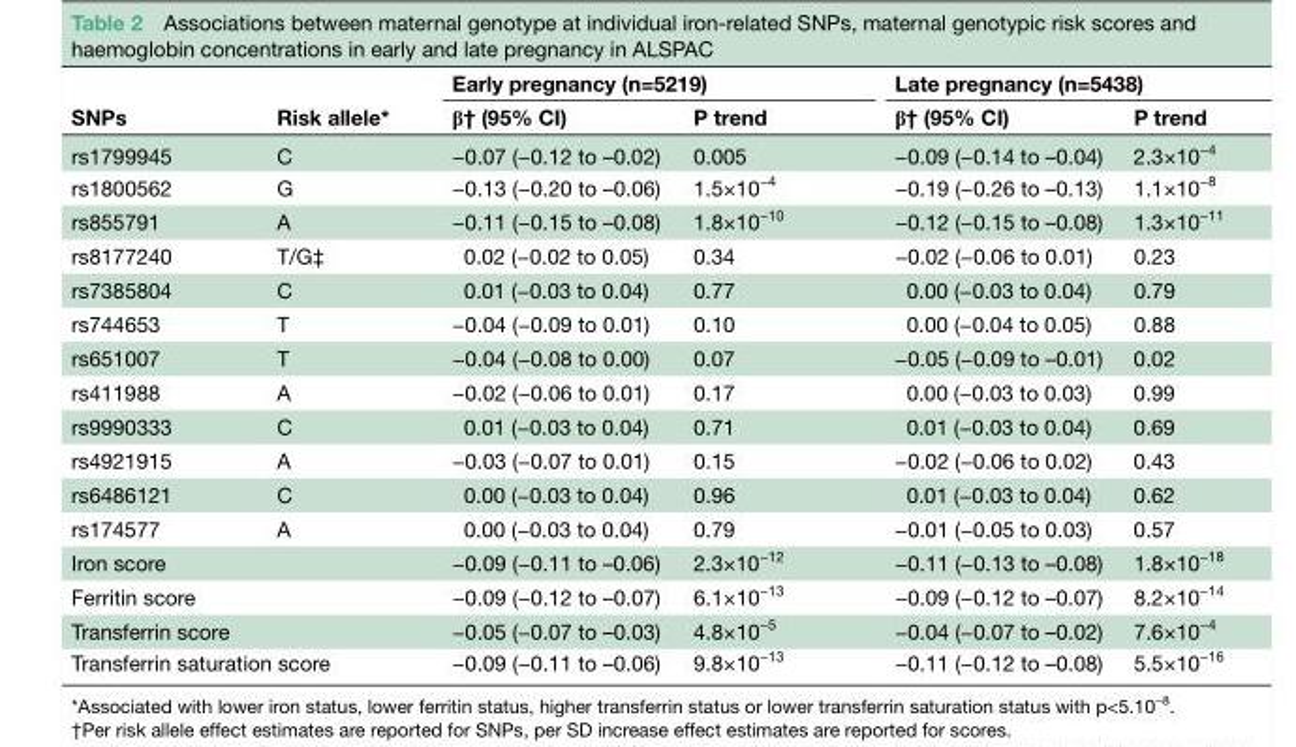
<table><thead><tr><td rowspan="2">SNPs</td><td rowspan="2">Risk allele*</td><td colspan="2">Early pregnancy (n=5219)</td><td colspan="2">Late pregnancy (n=5438)</td></tr><tr><td>β† (95% CI)</td><td>P trend</td><td>β† (95% CI)</td><td>P trend</td></tr></thead><tbody><tr><td>rs1799945</td><td>C</td><td>−0.07 (−0.12 to –0.02)</td><td>0.005</td><td>−0.09 (−0.14 to –0.04)</td><td>2.3×10<sup>−4</sup></td></tr><tr><td>rs1800562</td><td>G</td><td>−0.13 (−0.20 to –0.06)</td><td>1.5×10<sup>−4</sup></td><td>−0.19 (−0.26 to –0.13)</td><td>1.1×10<sup>−8</sup></td></tr><tr><td>rs855791</td><td>A</td><td>−0.11 (−0.15 to –0.08)</td><td>1.8×10<sup>−10</sup></td><td>−0.12 (−0.15 to –0.08)</td><td>1.3×10<sup>−11</sup></td></tr><tr><td>rs8177240</td><td>T/G‡</td><td>0.02 (−0.02 to 0.05)</td><td>0.34</td><td>−0.02 (−0.06 to 0.01)</td><td>0.23</td></tr><tr><td>rs7385804</td><td>C</td><td>0.01 (−0.03 to 0.04)</td><td>0.77</td><td>0.00 (−0.03 to 0.04)</td><td>0.79</td></tr><tr><td>rs744653</td><td>T</td><td>−0.04 (−0.09 to 0.01)</td><td>0.10</td><td>0.00 (−0.04 to 0.05)</td><td>0.88</td></tr><tr><td>rs651007</td><td>T</td><td>−0.04 (−0.08 to 0.00)</td><td>0.07</td><td>−0.05 (−0.09 to –0.01)</td><td>0.02</td></tr><tr><td>rs411988</td><td>A</td><td>−0.02 (−0.06 to 0.01)</td><td>0.17</td><td>0.00 (−0.03 to 0.03)</td><td>0.99</td></tr><tr><td>rs9990333</td><td>C</td><td>0.01 (−0.03 to 0.04)</td><td>0.71</td><td>0.01 (−0.03 to 0.04)</td><td>0.69</td></tr><tr><td>rs4921915</td><td>A</td><td>−0.03 (−0.07 to 0.01)</td><td>0.15</td><td>−0.02 (−0.06 to 0.02)</td><td>0.43</td></tr><tr><td>rs6486121</td><td>C</td><td>0.00 (−0.03 to 0.04)</td><td>0.96</td><td>0.01 (−0.03 to 0.04)</td><td>0.62</td></tr><tr><td>rs174577</td><td>A</td><td>0.00 (−0.03 to 0.04)</td><td>0.79</td><td>−0.01 (−0.05 to 0.03)</td><td>0.57</td></tr><tr><td colspan="2">Iron score</td><td>−0.09 (−0.11 to –0.06)</td><td>2.3×10<sup>−12</sup></td><td>−0.11 (−0.13 to –0.08)</td><td>1.8×10<sup>−18</sup></td></tr><tr><td colspan="2">Ferritin score</td><td>−0.09 (−0.12 to –0.07)</td><td>6.1×10<sup>−13</sup></td><td>−0.09 (−0.12 to –0.07)</td><td>8.2×10<sup>−14</sup></td></tr><tr><td colspan="2">Transferrin score</td><td>−0.05 (−0.07 to –0.03)</td><td>4.8×10<sup>−5</sup></td><td>−0.04 (−0.07 to –0.02)</td><td>7.6×10<sup>−4</sup></td></tr><tr><td colspan="2">Transferrin saturation score</td><td>−0.09 (−0.11 to –0.06)</td><td>9.8×10<sup>−13</sup></td><td>−0.11 (−0.12 to –0.08)</td><td>5.5×10<sup>−16</sup></td></tr></tbody></table>